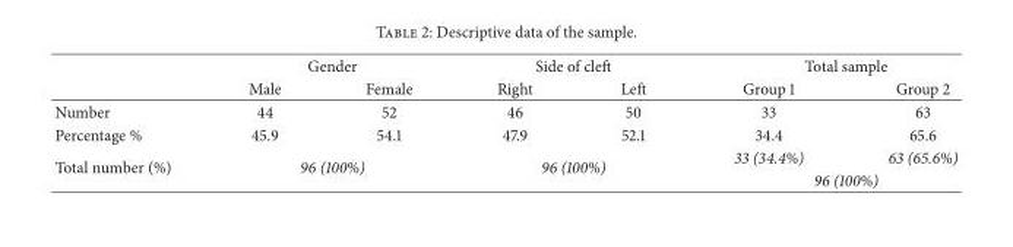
<table><thead><tr><td rowspan="2"></td><td colspan="2">Gender</td><td colspan="2">Side of cleft</td><td colspan="2">Total sample</td></tr><tr><td>Male</td><td>Female</td><td>Right</td><td>Left</td><td>Group 1</td><td>Group 2</td></tr></thead><tbody><tr><td>Number</td><td>44</td><td>52</td><td>46</td><td>50</td><td>33</td><td>63</td></tr><tr><td>Percentage %</td><td>45.9</td><td>54.1</td><td>47.9</td><td>52.1</td><td>34.4</td><td>65.6</td></tr><tr><td rowspan="2">Total number (%)</td><td rowspan="2" colspan="2">96 (100%)</td><td rowspan="2" colspan="2">96 (100%)</td><td>33 (34.4%)</td><td>63 (65.6%)</td></tr><tr><td colspan="2">96 (100%)</td></tr></tbody></table>